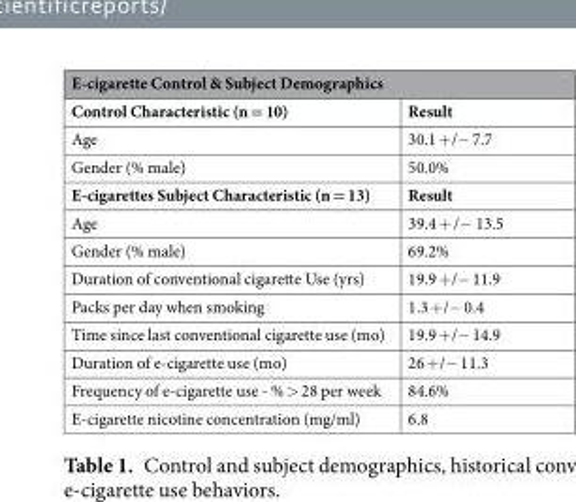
<table><thead><tr><td colspan="2">E-cigarette Control &amp; Subject Demographics</td></tr><tr><td>Control Characteristic (n = 10)</td><td>Result</td></tr></thead><tbody><tr><td>Age</td><td>30.1 +/− 7.7</td></tr><tr><td>Gender (% male)</td><td>50.0%</td></tr><tr><td>E-cigarettes Subject Characteristic (n = 13)</td><td>Result</td></tr><tr><td>Age</td><td>39.4 + /− 13.5</td></tr><tr><td>Gender (% male)</td><td>69.2%</td></tr><tr><td>Duration of conventional cigarette Use (yrs)</td><td>19.9 +/− 11.9</td></tr><tr><td>Packs per day when smoking</td><td>1.3 +/− 0.4</td></tr><tr><td>Time since last conventional cigarette use (mo)</td><td>19.9 +/− 14.9</td></tr><tr><td>Duration of e-cigarette use (mo)</td><td>26 +/− 11.3</td></tr><tr><td>Frequency of e-cigarette use - % &gt; 28 per week</td><td>84.6%</td></tr><tr><td>E-cigarette nicotine concentration (mg/ml)</td><td>6.8</td></tr></tbody></table>